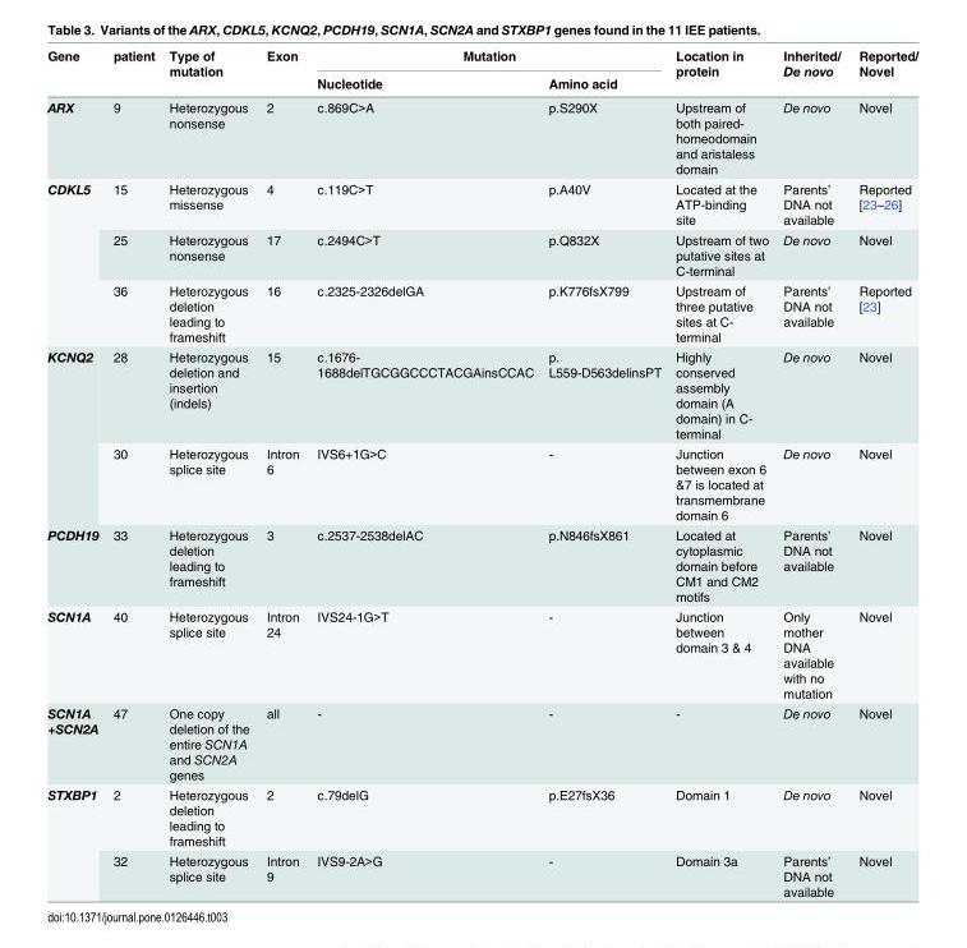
<table><thead><tr><td rowspan="2">Gene</td><td rowspan="2">patient</td><td rowspan="2">Type of mutation</td><td rowspan="2">Exon</td><td colspan="2">Mutation</td><td rowspan="2">Location in protein</td><td rowspan="2">Inherited/ De novo</td><td rowspan="2">Reported/ Novel</td></tr><tr><td>Nucleotide</td><td>Amino acid</td></tr></thead><tbody><tr><td>ARX</td><td>9</td><td>Heterozygous nonsense</td><td>2</td><td>c.869C&gt;A</td><td>p.S290X</td><td>Upstream of both paired- homeodomain and aristaless domain</td><td>De novo</td><td>Novel</td></tr><tr><td rowspan="3">CDKL5</td><td>15</td><td>Heterozygous missense</td><td>4</td><td>c.119C&gt;T</td><td>p.A40V</td><td>Located at the ATP-binding site</td><td>Parents’ DNA not available</td><td>Reported [23–26]</td></tr><tr><td>25</td><td>Heterozygous nonsense</td><td>17</td><td>c.2494C&gt;T</td><td>p.Q832X</td><td>Upstream of two putative sites at C-terminal</td><td>De novo</td><td>Novel</td></tr><tr><td>36</td><td>Heterozygous deletion leading to frameshift</td><td>16</td><td>c.2325-2326delGA</td><td>p.K776fsX799</td><td>Upstream of three putative sites at C- terminal</td><td>Parents’ DNA not available</td><td>Reported [23]</td></tr><tr><td rowspan="2">KCNQ2</td><td>28</td><td>Heterozygous deletion and insertion (indels)</td><td>15</td><td>c.1676- 1688delTGCGGCCCTACGAinsCCAC</td><td>p. L559-D563delinsPT</td><td>Highly conserved assembly domain (A domain) in C- terminal</td><td>De novo</td><td>Novel</td></tr><tr><td>30</td><td>Heterozygous splice site</td><td>Intron 6</td><td>IVS6+1G&gt;C</td><td>-</td><td>Junction between exon 6 &amp;7 is located at transmembrane domain 6</td><td>De novo</td><td>Novel</td></tr><tr><td>PCDH19</td><td>33</td><td>Heterozygous deletion leading to frameshift</td><td>3</td><td>c.2537-2538delAC</td><td>p.N846fsX861</td><td>Located at cytoplasmic domain before CM1 and CM2 motifs</td><td>Parents’ DNA not available</td><td>Novel</td></tr><tr><td>SCN1A</td><td>40</td><td>Heterozygous splice site</td><td>Intron 24</td><td>IVS24-1G&gt;T</td><td>-</td><td>Junction between domain 3 &amp; 4</td><td>Only mother DNA available with no mutation</td><td>Novel</td></tr><tr><td>SCN1A +SCN2A</td><td>47</td><td>One copy deletion of the entire SCN1A and SCN2A genes</td><td>all</td><td>-</td><td>-</td><td>-</td><td>De novo</td><td>Novel</td></tr><tr><td rowspan="2">STXBP1</td><td>2</td><td>Heterozygous deletion leading to frameshift</td><td>2</td><td>c.79delG</td><td>p.E27fsX36</td><td>Domain 1</td><td>De novo</td><td>Novel</td></tr><tr><td>32</td><td>Heterozygous splice site</td><td>Intron 9</td><td>IVS9-2A&gt;G</td><td>-</td><td>Domain 3a</td><td>Parents’ DNA not available</td><td>Novel</td></tr></tbody></table>